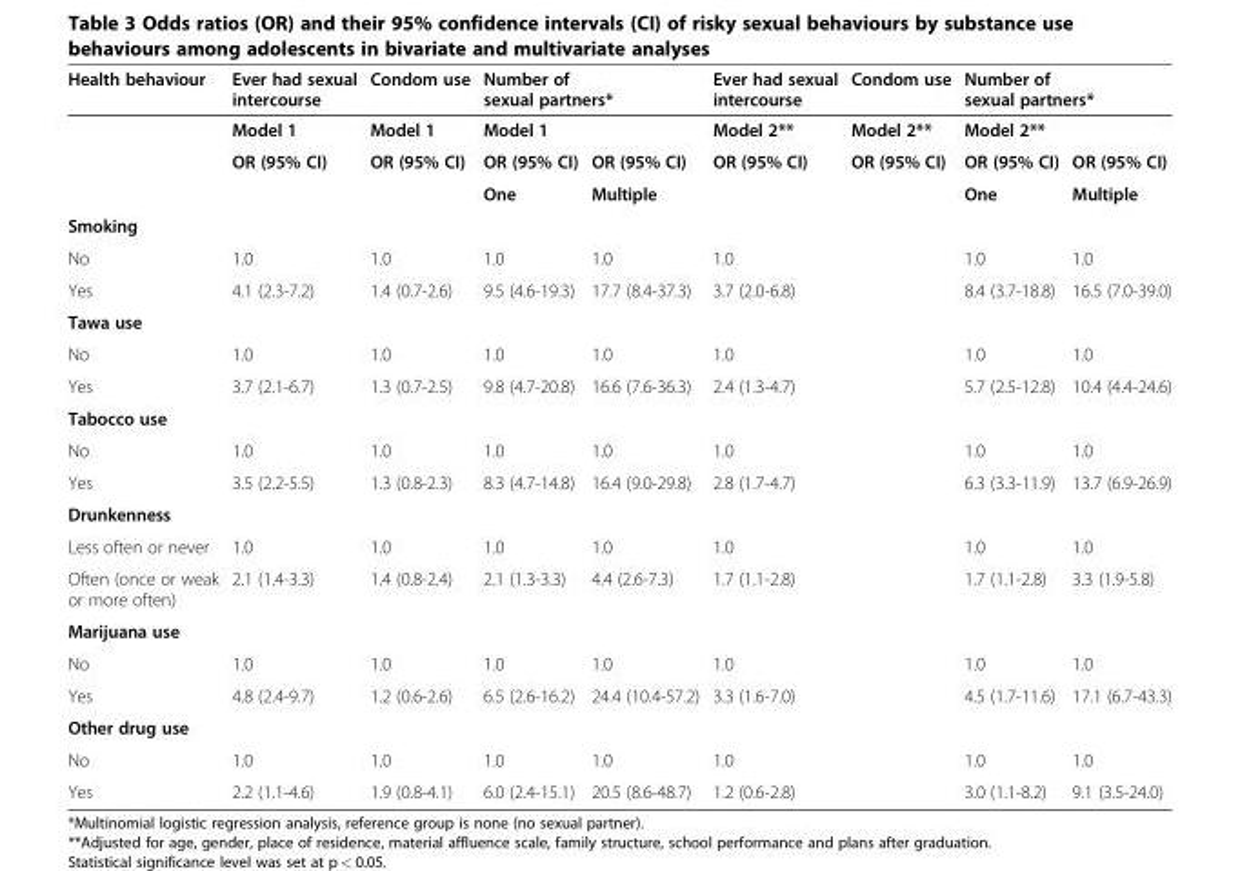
<table><thead><tr><td rowspan="3">Health behaviour</td><td rowspan="3">Ever had sexual intercourse Model 1 OR (95% CI)</td><td rowspan="3">Condom use Model 1 OR (95% CI)</td><td rowspan="2" colspan="2">Number of sexual partners* Model 1</td><td rowspan="3">Ever had sexual intercourse Model 2** OR (95% CI)</td><td rowspan="3">Condom use Model 2** OR (95% CI)</td><td rowspan="2" colspan="2">Number of sexual partners* Model 2**</td></tr><tr></tr><tr><td>OR (95% CI)</td><td>OR (95% CI)</td><td>OR (95% CI)</td><td>OR (95% CI)</td></tr></thead><tbody><tr><td></td><td></td><td></td><td>One</td><td>Multiple</td><td></td><td></td><td>One</td><td>Multiple</td></tr><tr><td colspan="9">Smoking</td></tr><tr><td>No</td><td>1.0</td><td>1.0</td><td>1.0</td><td>1.0</td><td>1.0</td><td></td><td>1.0</td><td>1.0</td></tr><tr><td>Yes</td><td>4.1 (2.3-7.2)</td><td>1.4 (0.7-2.6)</td><td>9.5 (4.6-19.3)</td><td>17.7 (8.4-37.3)</td><td>3.7 (2.0-6.8)</td><td></td><td>8.4 (3.7-18.8)</td><td>16.5 (7.0-39.0)</td></tr><tr><td colspan="9">Tawa use</td></tr><tr><td>No</td><td>1.0</td><td>1.0</td><td>1.0</td><td>1.0</td><td>1.0</td><td></td><td>1.0</td><td>1.0</td></tr><tr><td>Yes</td><td>3.7 (2.1-6.7)</td><td>1.3 (0.7-2.5)</td><td>9.8 (4.7-20.8)</td><td>16.6 (7.6-36.3)</td><td>2.4 (1.3-4.7)</td><td></td><td>5.7 (2.5-12.8)</td><td>10.4 (4.4-24.6)</td></tr><tr><td colspan="9">Tabocco use</td></tr><tr><td>No</td><td>1.0</td><td>1.0</td><td>1.0</td><td>1.0</td><td>1.0</td><td></td><td>1.0</td><td>1.0</td></tr><tr><td>Yes</td><td>3.5 (2.2-5.5)</td><td>1.3 (0.8-2.3)</td><td>8.3 (4.7-14.8)</td><td>16.4 (9.0-29.8)</td><td>2.8 (1.7-4.7)</td><td></td><td>6.3 (3.3-11.9)</td><td>13.7 (6.9-26.9)</td></tr><tr><td colspan="9">Drunkenness</td></tr><tr><td>Less often or never</td><td>1.0</td><td>1.0</td><td>1.0</td><td>1.0</td><td>1.0</td><td></td><td>1.0</td><td>1.0</td></tr><tr><td>Often (once or weak or more often)</td><td>2.1 (1.4-3.3)</td><td>1.4 (0.8-2.4)</td><td>2.1 (1.3-3.3)</td><td>4.4 (2.6-7.3)</td><td>1.7 (1.1-2.8)</td><td></td><td>1.7 (1.1-2.8)</td><td>3.3 (1.9-5.8)</td></tr><tr><td colspan="9">Marijuana use</td></tr><tr><td>No</td><td>1.0</td><td>1.0</td><td>1.0</td><td>1.0</td><td>1.0</td><td></td><td>1.0</td><td>1.0</td></tr><tr><td>Yes</td><td>4.8 (2.4-9.7)</td><td>1.2 (0.6-2.6)</td><td>6.5 (2.6-16.2)</td><td>24.4 (10.4-57.2)</td><td>3.3 (1.6-7.0)</td><td></td><td>4.5 (1.7-11.6)</td><td>17.1 (6.7-43.3)</td></tr><tr><td colspan="9">Other drug use</td></tr><tr><td>No</td><td>1.0</td><td>1.0</td><td>1.0</td><td>1.0</td><td>1.0</td><td></td><td>1.0</td><td>1.0</td></tr><tr><td>Yes</td><td>2.2 (1.1-4.6)</td><td>1.9 (0.8-4.1)</td><td>6.0 (2.4-15.1)</td><td>20.5 (8.6-48.7)</td><td>1.2 (0.6-2.8)</td><td></td><td>3.0 (1.1-8.2)</td><td>9.1 (3.5-24.0)</td></tr></tbody></table>